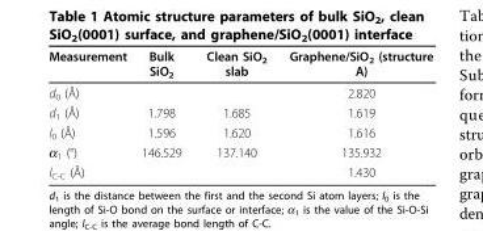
<table><thead><tr><td>Measurement</td><td>Bulk SiO<sub>2</sub></td><td>Clean SiO<sub>2</sub> slab</td><td>Graphene/SiO<sub>2</sub> (structure A)</td></tr></thead><tbody><tr><td>d<sub>0</sub> (Å)</td><td></td><td></td><td>2.820</td></tr><tr><td>d<sub>1</sub> (Å)</td><td>1.798</td><td>1.685</td><td>1.619</td></tr><tr><td>l<sub>0</sub> (Å)</td><td>1.596</td><td>1.620</td><td>1.616</td></tr><tr><td>α<sub>1</sub> (°)</td><td>146.529</td><td>137.140</td><td>135.932</td></tr><tr><td>l<sub>C-C</sub> (Å)</td><td></td><td></td><td>1.430</td></tr></tbody></table>